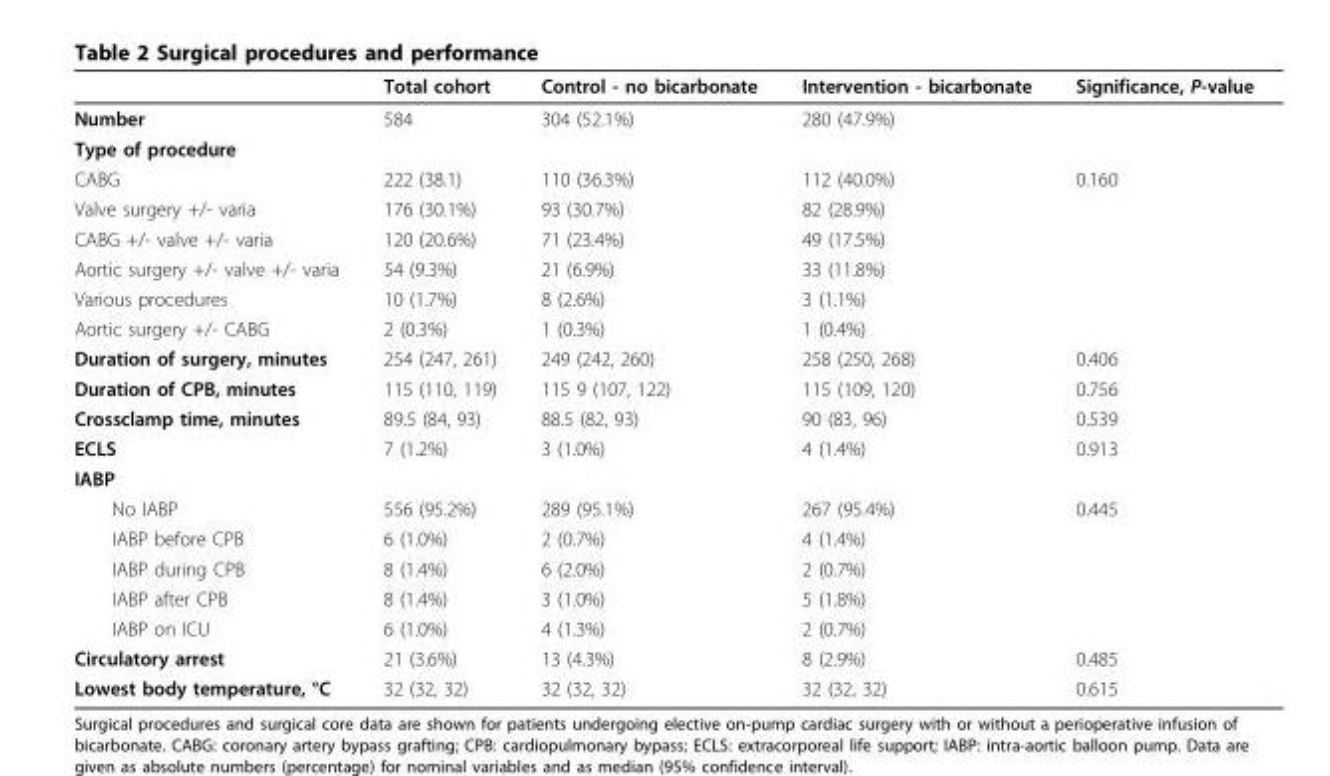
<table><thead><tr><td></td><td>Total cohort</td><td>Control - no bicarbonate</td><td>Intervention - bicarbonate</td><td>Significance, P-value</td></tr></thead><tbody><tr><td>Number</td><td>584</td><td>304 (52.1%)</td><td>280 (47.9%)</td><td></td></tr><tr><td colspan="5">Type of procedure</td></tr><tr><td>CABG</td><td>222 (38.1)</td><td>110 (36.3%)</td><td>112 (40.0%)</td><td>0.160</td></tr><tr><td>Valve surgery +/- varia</td><td>176 (30.1%)</td><td>93 (30.7%)</td><td>82 (28.9%)</td><td></td></tr><tr><td>CABG +/- valve +/- varia</td><td>120 (20.6%)</td><td>71 (23.4%)</td><td>49 (17.5%)</td><td></td></tr><tr><td>Aortic surgery +/- valve +/- varia</td><td>54 (9.3%)</td><td>21 (6.9%)</td><td>33 (11.8%)</td><td></td></tr><tr><td>Various procedures</td><td>10 (1.7%)</td><td>8 (2.6%)</td><td>3 (1.1%)</td><td></td></tr><tr><td>Aortic surgery +/- CABG</td><td>2 (0.3%)</td><td>1 (0.3%)</td><td>1 (0.4%)</td><td></td></tr><tr><td>Duration of surgery, minutes</td><td>254 (247, 261)</td><td>249 (242, 260)</td><td>258 (250, 268)</td><td>0.406</td></tr><tr><td>Duration of CPB, minutes</td><td>115 (110, 119)</td><td>115 9 (107, 122)</td><td>115 (109, 120)</td><td>0.756</td></tr><tr><td>Crossclamp time, minutes</td><td>89.5 (84, 93)</td><td>88.5 (82, 93)</td><td>90 (83, 96)</td><td>0.539</td></tr><tr><td>ECLS</td><td>7 (1.2%)</td><td>3 (1.0%)</td><td>4 (1.4%)</td><td>0.913</td></tr><tr><td colspan="5">IABP</td></tr><tr><td>No IABP</td><td>556 (95.2%)</td><td>289 (95.1%)</td><td>267 (95.4%)</td><td>0.445</td></tr><tr><td>IABP before CPB</td><td>6 (1.0%)</td><td>2 (0.7%)</td><td>4 (1.4%)</td><td></td></tr><tr><td>IABP during CPB</td><td>8 (1.4%)</td><td>6 (2.0%)</td><td>2 (0.7%)</td><td></td></tr><tr><td>IABP after CPB</td><td>8 (1.4%)</td><td>3 (1.0%)</td><td>5 (1.8%)</td><td></td></tr><tr><td>IABP on ICU</td><td>6 (1.0%)</td><td>4 (1.3%)</td><td>2 (0.7%)</td><td></td></tr><tr><td>Circulatory arrest</td><td>21 (3.6%)</td><td>13 (4.3%)</td><td>8 (2.9%)</td><td>0.485</td></tr><tr><td>Lowest body temperature, °C</td><td>32 (32, 32)</td><td>32 (32, 32)</td><td>32 (32, 32)</td><td>0.615</td></tr></tbody></table>